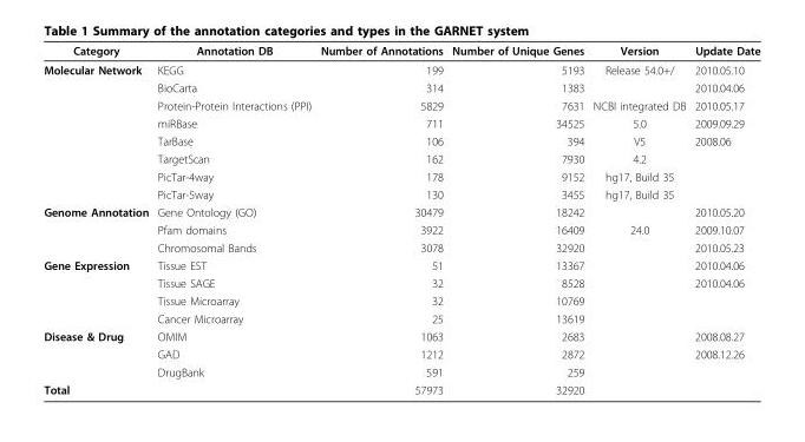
<table><thead><tr><td>Category</td><td>Annotation DB</td><td>Number of Annotations</td><td>Number of Unique Genes</td><td>Version</td><td>Update Date</td></tr></thead><tbody><tr><td rowspan="8">Molecular Network</td><td>KEGG</td><td>199</td><td>5193</td><td>Release 54.0+/</td><td>2010.05.10</td></tr><tr><td>BioCarta</td><td>314</td><td>1383</td><td></td><td>2010.04.06</td></tr><tr><td>Protein-Protein Interactions (PPI)</td><td>5829</td><td>7631</td><td>NCBI integrated DB</td><td>2010.05.17</td></tr><tr><td>miRBase</td><td>711</td><td>34525</td><td>5.0</td><td>2009.09.29</td></tr><tr><td>TarBase</td><td>106</td><td>394</td><td>V5</td><td>2008.06</td></tr><tr><td>TargetScan</td><td>162</td><td>7930</td><td>4.2</td><td></td></tr><tr><td>PicTar-4way</td><td>178</td><td>9152</td><td>hg17, Build 35</td><td></td></tr><tr><td>PicTar-5way</td><td>130</td><td>3455</td><td>hg17, Build 35</td><td></td></tr><tr><td rowspan="3">Genome Annotation</td><td>Gene Ontology (GO)</td><td>30479</td><td>18242</td><td></td><td>2010.05.20</td></tr><tr><td>Pfam domains</td><td>3922</td><td>16409</td><td>24.0</td><td>2009.10.07</td></tr><tr><td>Chromosomal Bands</td><td>3078</td><td>32920</td><td></td><td>2010.05.23</td></tr><tr><td rowspan="4">Gene Expression</td><td>Tissue EST</td><td>51</td><td>13367</td><td></td><td>2010.04.06</td></tr><tr><td>Tissue SAGE</td><td>32</td><td>8528</td><td></td><td>2010.04.06</td></tr><tr><td>Tissue Microarray</td><td>32</td><td>10769</td><td></td><td></td></tr><tr><td>Cancer Microarray</td><td>25</td><td>13619</td><td></td><td></td></tr><tr><td rowspan="3">Disease &amp; Drug</td><td>OMIM</td><td>1063</td><td>2683</td><td></td><td>2008.08.27</td></tr><tr><td>GAD</td><td>1212</td><td>2872</td><td></td><td>2008.12.26</td></tr><tr><td>DrugBank</td><td>591</td><td>259</td><td></td><td></td></tr><tr><td>Total</td><td></td><td>57973</td><td>32920</td><td></td><td></td></tr></tbody></table>